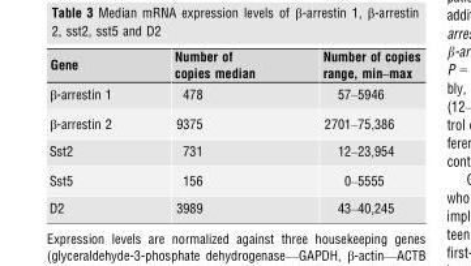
<table><thead><tr><td>Gene</td><td>Number of copies median</td><td>Number of copies range, min–max</td></tr></thead><tbody><tr><td>β-arrestin 1</td><td>478</td><td>57–5946</td></tr><tr><td>β-arrestin 2</td><td>9375</td><td>2701–75,386</td></tr><tr><td>Sst2</td><td>731</td><td>12–23,954</td></tr><tr><td>Sst5</td><td>156</td><td>0–5555</td></tr><tr><td>D2</td><td>3989</td><td>43–40,245</td></tr></tbody></table>